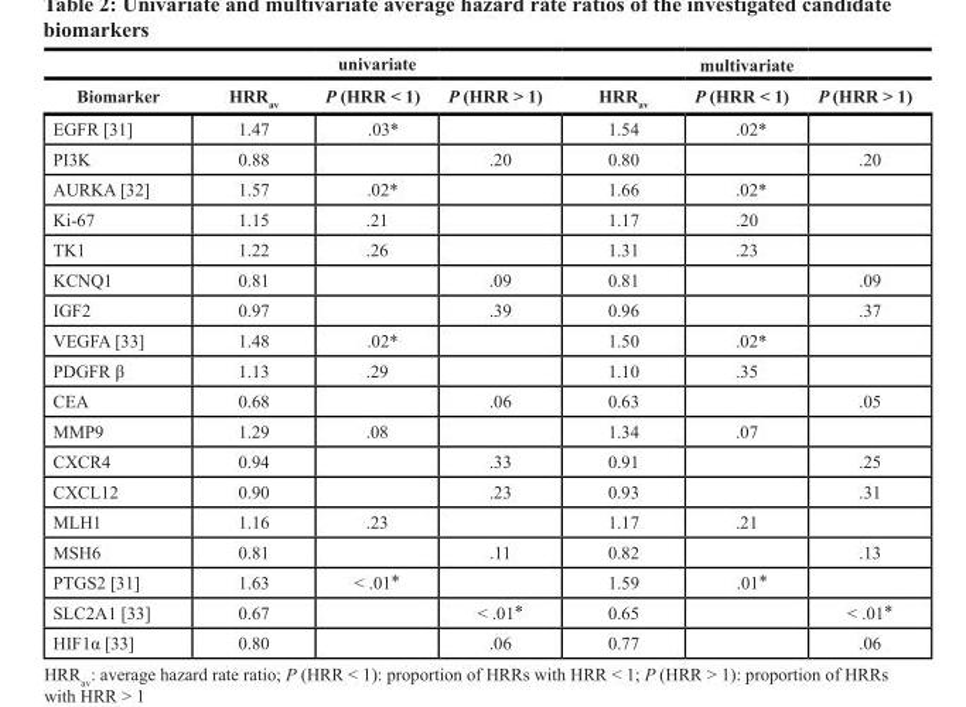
<table><thead><tr><td rowspan="2">Biomarker</td><td colspan="3">univariate</td><td colspan="3">multivariate</td></tr><tr><td>HRR<sub>av</sub></td><td>P (HRR &lt; 1)</td><td>P (HRR &gt; 1)</td><td>HRR<sub>av</sub></td><td>P (HRR &lt; 1)</td><td>P (HRR &gt; 1)</td></tr></thead><tbody><tr><td>EGFR [31]</td><td>1.47</td><td>.03*</td><td></td><td>1.54</td><td>.02*</td><td></td></tr><tr><td>PI3K</td><td>0.88</td><td></td><td>.20</td><td>0.80</td><td></td><td>.20</td></tr><tr><td>AURKA [32]</td><td>1.57</td><td>.02*</td><td></td><td>1.66</td><td>.02*</td><td></td></tr><tr><td>Ki-67</td><td>1.15</td><td>.21</td><td></td><td>1.17</td><td>.20</td><td></td></tr><tr><td>TK1</td><td>1.22</td><td>.26</td><td></td><td>1.31</td><td>.23</td><td></td></tr><tr><td>KCNQ1</td><td>0.81</td><td></td><td>.09</td><td>0.81</td><td></td><td>.09</td></tr><tr><td>IGF2</td><td>0.97</td><td></td><td>.39</td><td>0.96</td><td></td><td>.37</td></tr><tr><td>VEGFA [33]</td><td>1.48</td><td>.02*</td><td></td><td>1.50</td><td>.02*</td><td></td></tr><tr><td>PDGFR β</td><td>1.13</td><td>.29</td><td></td><td>1.10</td><td>.35</td><td></td></tr><tr><td>CEA</td><td>0.68</td><td></td><td>.06</td><td>0.63</td><td></td><td>.05</td></tr><tr><td>MMP9</td><td>1.29</td><td>.08</td><td></td><td>1.34</td><td>.07</td><td></td></tr><tr><td>CXCR4</td><td>0.94</td><td></td><td>.33</td><td>0.91</td><td></td><td>.25</td></tr><tr><td>CXCL12</td><td>0.90</td><td></td><td>.23</td><td>0.93</td><td></td><td>.31</td></tr><tr><td>MLH1</td><td>1.16</td><td>.23</td><td></td><td>1.17</td><td>.21</td><td></td></tr><tr><td>MSH6</td><td>0.81</td><td></td><td>.11</td><td>0.82</td><td></td><td>.13</td></tr><tr><td>PTGS2 [31]</td><td>1.63</td><td>&lt; .01*</td><td></td><td>1.59</td><td>.01*</td><td></td></tr><tr><td>SLC2A1 [33]</td><td>0.67</td><td></td><td>&lt; .01*</td><td>0.65</td><td></td><td>&lt; .01*</td></tr><tr><td>HIF1α [33]</td><td>0.80</td><td></td><td>.06</td><td>0.77</td><td></td><td>.06</td></tr></tbody></table>